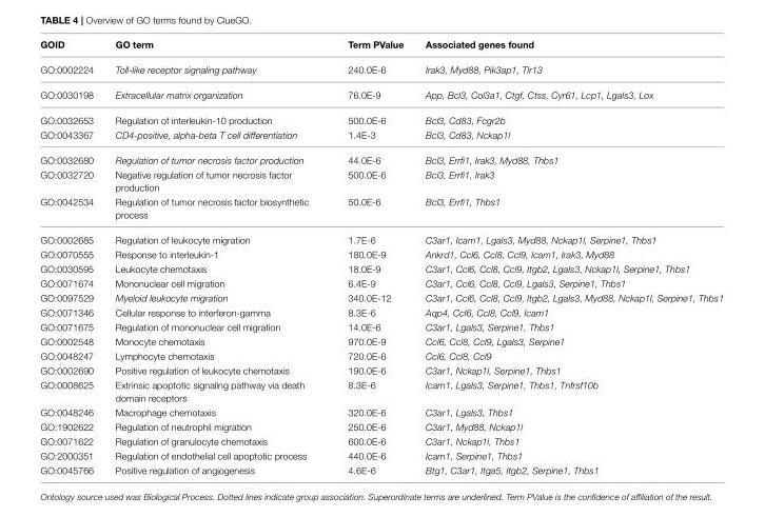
<table><thead><tr><td>GOID</td><td>GO term</td><td>Term PValue</td><td>Associated genes found</td></tr></thead><tbody><tr><td>GO:0002224</td><td>Toll-like receptor signaling pathway</td><td>240.0E-6</td><td>Irak3, Myd88, Pik3ap1, Tlr13</td></tr><tr><td>GO:0030198</td><td>Extracellular matrix organization</td><td>76.0E-9</td><td>App, Bcl3, Col3a1, Ctgf, Ctss, Cyr61, Lcp1, Lgals3, Lox</td></tr><tr><td>GO:0032653</td><td>Regulation of interleukin-10 production</td><td>500.0E-6</td><td>Bcl3, Cd83, Fcgr2b</td></tr><tr><td>GO:0043367</td><td>CD4-positive, alpha-beta T cell differentiation</td><td>1.4E-3</td><td>Bcl3, Cd83, Nckap1l</td></tr><tr><td>GO:0032680</td><td>Regulation of tumor necrosis factor production</td><td>44.0E-6</td><td>Bcl3, Errfi1, Irak3, Myd88, Thbs1</td></tr><tr><td>GO:0032720</td><td>Negative regulation of tumor necrosis factor production</td><td>500.0E-6</td><td>Bcl3, Errfi1, Irak3</td></tr><tr><td>GO:0042534</td><td>Regulation of tumor necrosis factor biosynthetic process</td><td>50.0E-6</td><td>Bcl3, Errfi1, Thbs1</td></tr><tr><td>GO:0002685</td><td>Regulation of leukocyte migration</td><td>1.7E-6</td><td>C3ar1, Icam1, Lgals3, Myd88, Nckap1l, Serpine1, Thbs1</td></tr><tr><td>GO:0070555</td><td>Response to interleukin-1</td><td>180.0E-9</td><td>Ankrd1, Ccl6, Ccl8, Ccl9, Icam1, Irak3, Myd88</td></tr><tr><td>GO:0030595</td><td>Leukocyte chemotaxis</td><td>18.0E-9</td><td>C3ar1, Ccl6, Ccl8, Ccl9, Itgb2, Lgals3, Nckap1l, Serpine1, Thbs1</td></tr><tr><td>GO:0071674</td><td>Mononuclear cell migration</td><td>6.4E-9</td><td>C3ar1, Ccl6, Ccl8, Ccl9, Lgals3, Serpine1, Thbs1</td></tr><tr><td>GO:0097529</td><td>Myeloid leukocyte migration</td><td>340.0E-12</td><td>C3ar1, Ccl6, Ccl8, Ccl9, Itgb2, Lgals3, Myd88, Nckap1l, Serpine1, Thbs1</td></tr><tr><td>GO:0071346</td><td>Cellular response to interferon-gamma</td><td>8.3E-6</td><td>Aqp4, Ccl6, Ccl8, Ccl9, Icam1</td></tr><tr><td>GO:0071675</td><td>Regulation of mononuclear cell migration</td><td>14.0E-6</td><td>C3ar1, Lgals3, Serpine1, Thbs1</td></tr><tr><td>GO:0002548</td><td>Monocyte chemotaxis</td><td>970.0E-9</td><td>Ccl6, Ccl8, Ccl9, Lgals3, Serpine1</td></tr><tr><td>GO:0048247</td><td>Lymphocyte chemotaxis</td><td>720.0E-6</td><td>Ccl6, Ccl8, Ccl9</td></tr><tr><td>GO:0002690</td><td>Positive regulation of leukocyte chemotaxis</td><td>190.0E-6</td><td>C3ar1, Nckap1l, Serpine1, Thbs1</td></tr><tr><td>GO:0008625</td><td>Extrinsic apoptotic signaling pathway via death domain receptors</td><td>8.3E-6</td><td>Icam1, Lgals3, Serpine1, Thbs1, Tnfrsf10b</td></tr><tr><td>GO:0048246</td><td>Macrophage chemotaxis</td><td>320.0E-6</td><td>C3ar1, Lgals3, Thbs1</td></tr><tr><td>GO:1902622</td><td>Regulation of neutrophil migration</td><td>250.0E-6</td><td>C3ar1, Myd88, Nckap1l</td></tr><tr><td>GO:0071622</td><td>Regulation of granulocyte chemotaxis</td><td>600.0E-6</td><td>C3ar1, Nckap1l, Thbs1</td></tr><tr><td>GO:2000351</td><td>Regulation of endothelial cell apoptotic process</td><td>440.0E-6</td><td>Icam1, Serpine1, Thbs1</td></tr><tr><td>GO:0045766</td><td>Positive regulation of angiogenesis</td><td>4.6E-6</td><td>Btg1, C3ar1, Itga5, Itgb2, Serpine1, Thbs1</td></tr></tbody></table>